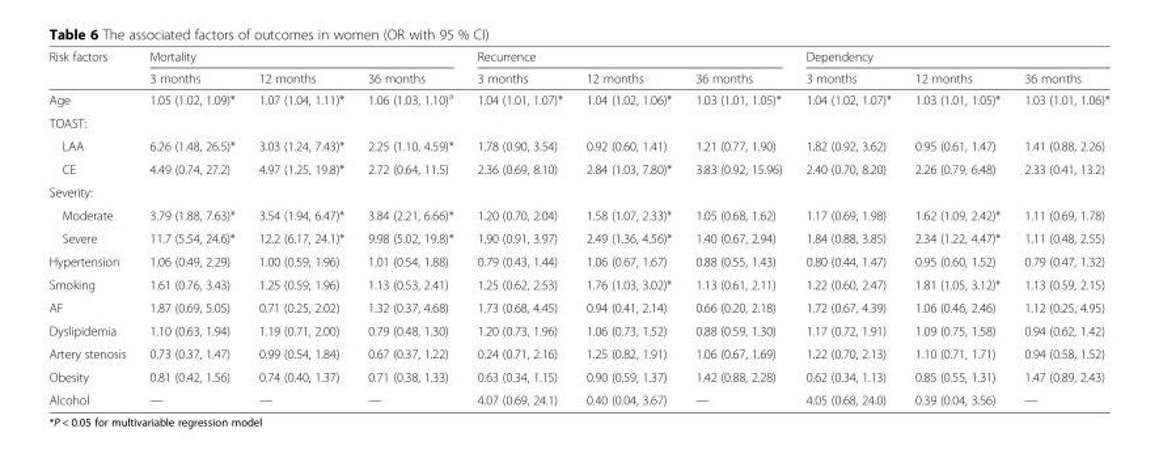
<table><thead><tr><td rowspan="2">Risk factors</td><td colspan="3">Mortality</td><td colspan="3">Recurrence</td><td colspan="3">Dependency</td></tr><tr><td>3 months</td><td>12 months</td><td>36 months</td><td>3 months</td><td>12 months</td><td>36 months</td><td>3 months</td><td>12 months</td><td>36 months</td></tr></thead><tbody><tr><td>Age</td><td>1.05 (1.02, 1.09)*</td><td>1.07 (1.04, 1.11)*</td><td>1.06 (1.03, 1.10)<sup>a</sup></td><td>1.04 (1.01, 1.07)*</td><td>1.04 (1.02, 1.06)*</td><td>1.03 (1.01, 1.05)*</td><td>1.04 (1.02, 1.07)*</td><td>1.03 (1.01, 1.05)*</td><td>1.03 (1.01, 1.06)*</td></tr><tr><td colspan="10">TOAST:</td></tr><tr><td>LAA</td><td>6.26 (1.48, 26.5)*</td><td>3.03 (1.24, 7.43)*</td><td>2.25 (1.10, 4.59)*</td><td>1.78 (0.90, 3.54)</td><td>0.92 (0.60, 1.41)</td><td>1.21 (0.77, 1.90)</td><td>1.82 (0.92, 3.62)</td><td>0.95 (0.61, 1.47)</td><td>1.41 (0.88, 2.26)</td></tr><tr><td>CE</td><td>4.49 (0.74, 27.2)</td><td>4.97 (1.25, 19.8)*</td><td>2.72 (0.64, 11.5)</td><td>2.36 (0.69, 8.10)</td><td>2.84 (1.03, 7.80)*</td><td>3.83 (0.92, 15.96)</td><td>2.40 (0.70, 8.20)</td><td>2.26 (0.79, 6.48)</td><td>2.33 (0.41, 13.2)</td></tr><tr><td colspan="10">Severity:</td></tr><tr><td>Moderate</td><td>3.79 (1.88, 7.63)*</td><td>3.54 (1.94, 6.47)*</td><td>3.84 (2.21, 6.66)*</td><td>1.20 (0.70, 2.04)</td><td>1.58 (1.07, 2.33)*</td><td>1.05 (0.68, 1.62)</td><td>1.17 (0.69, 1.98)</td><td>1.62 (1.09, 2.42)*</td><td>1.11 (0.69, 1.78)</td></tr><tr><td>Severe</td><td>11.7 (5.54, 24.6)*</td><td>12.2 (6.17, 24.1)*</td><td>9.98 (5.02, 19.8)*</td><td>1.90 (0.91, 3.97)</td><td>2.49 (1.36, 4.56)*</td><td>1.40 (0.67, 2.94)</td><td>1.84 (0.88, 3.85)</td><td>2.34 (1.22, 4.47)*</td><td>1.11 (0.48, 2.55)</td></tr><tr><td>Hypertension</td><td>1.06 (0.49, 2.29)</td><td>1.00 (0.59, 1.96)</td><td>1.01 (0.54, 1.88)</td><td>0.79 (0.43, 1.44)</td><td>1.06 (0.67, 1.67)</td><td>0.88 (0.55, 1.43)</td><td>0.80 (0.44, 1.47)</td><td>0.95 (0.60, 1.52)</td><td>0.79 (0.47, 1.32)</td></tr><tr><td>Smoking</td><td>1.61 (0.76, 3.43)</td><td>1.25 (0.59, 1.96)</td><td>1.13 (0.53, 2.41)</td><td>1.25 (0.62, 2.53)</td><td>1.76 (1.03, 3.02)*</td><td>1.13 (0.61, 2.11)</td><td>1.22 (0.60, 2.47)</td><td>1.81 (1.05, 3.12)*</td><td>1.13 (0.59, 2.15)</td></tr><tr><td>AF</td><td>1.87 (0.69, 5.05)</td><td>0.71 (0.25, 2.02)</td><td>1.32 (0.37, 4.68)</td><td>1.73 (0.68, 4.45)</td><td>0.94 (0.41, 2.14)</td><td>0.66 (0.20, 2.18)</td><td>1.72 (0.67, 4.39)</td><td>1.06 (0.46, 2.46)</td><td>1.12 (0.25, 4.95)</td></tr><tr><td>Dyslipidemia</td><td>1.10 (0.63, 1.94)</td><td>1.19 (0.71, 2.00)</td><td>0.79 (0.48, 1.30)</td><td>1.20 (0.73, 1.96)</td><td>1.06 (0.73, 1.52)</td><td>0.88 (0.59, 1.30)</td><td>1.17 (0.72, 1.91)</td><td>1.09 (0.75, 1.58)</td><td>0.94 (0.62, 1.42)</td></tr><tr><td>Artery stenosis</td><td>0.73 (0.37, 1.47)</td><td>0.99 (0.54, 1.84)</td><td>0.67 (0.37, 1.22)</td><td>0.24 (0.71, 2.16)</td><td>1.25 (0.82, 1.91)</td><td>1.06 (0.67, 1.69)</td><td>1.22 (0.70, 2.13)</td><td>1.10 (0.71, 1.71)</td><td>0.94 (0.58, 1.52)</td></tr><tr><td>Obesity</td><td>0.81 (0.42, 1.56)</td><td>0.74 (0.40, 1.37)</td><td>0.71 (0.38, 1.33)</td><td>0.63 (0.34, 1.15)</td><td>0.90 (0.59, 1.37)</td><td>1.42 (0.88, 2.28)</td><td>0.62 (0.34, 1.13)</td><td>0.85 (0.55, 1.31)</td><td>1.47 (0.89, 2.43)</td></tr><tr><td>Alcohol</td><td>—</td><td>—</td><td>—</td><td>4.07 (0.69, 24.1)</td><td>0.40 (0.04, 3.67)</td><td>—</td><td>4.05 (0.68, 24.0)</td><td>0.39 (0.04, 3.56)</td><td>—</td></tr></tbody></table>